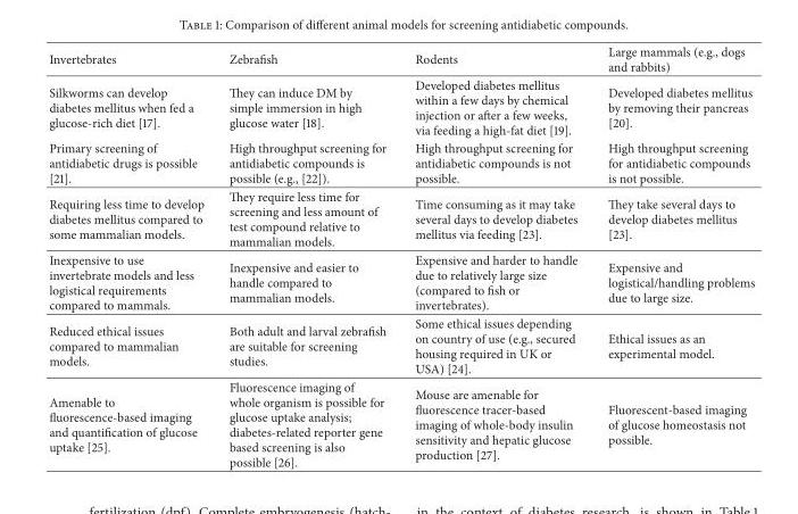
<table><thead><tr><td>Invertebrates</td><td>Zebrafish</td><td>Rodents</td><td>Large mammals (e.g., dogs and rabbits)</td></tr></thead><tbody><tr><td>Silkworms can develop diabetes mellitus when fed a glucose-rich diet [17].</td><td>They can induce DM by simple immersion in high glucose water [18].</td><td>Developed diabetes mellitus within a few days by chemical injection or after a few weeks, via feeding a high-fat diet [19].</td><td>Developed diabetes mellitus by removing their pancreas [20].</td></tr><tr><td>Primary screening of antidiabetic drugs is possible [21].</td><td>High throughput screening for antidiabetic compounds is possible (e.g., [22]).</td><td>High throughput screening for antidiabetic compounds is not possible.</td><td>High throughput screening for antidiabetic compounds is not possible.</td></tr><tr><td>Requiring less time to develop diabetes mellitus compared to some mammalian models.</td><td>They require less time for screening and less amount of test compound relative to mammalian models.</td><td>Time consuming as it may take several days to develop diabetes mellitus via feeding [23].</td><td>They take several days to develop diabetes mellitus [23].</td></tr><tr><td>Inexpensive to use invertebrate models and less logistical requirements compared to mammals.</td><td>Inexpensive and easier to handle compared to mammalian models.</td><td>Expensive and harder to handle due to relatively large size (compared to fish or invertebrates).</td><td>Expensive and logistical/handling problems due to large size.</td></tr><tr><td>Reduced ethical issues compared to mammalian models.</td><td>Both adult and larval zebrafish are suitable for screening studies.</td><td>Some ethical issues depending on country of use (e.g., secured housing required in UK or USA) [24].</td><td>Ethical issues as an experimental model.</td></tr><tr><td>Amenable to fluorescence-based imaging and quantification of glucose uptake [25].</td><td>Fluorescence imaging of whole organism is possible for glucose uptake analysis; diabetes-related reporter gene based screening is also possible [26].</td><td>Mouse are amenable for fluorescence tracer-based imaging of whole-body insulin sensitivity and hepatic glucose production [27].</td><td>Fluorescent-based imaging of glucose homeostasis not possible.</td></tr></tbody></table>